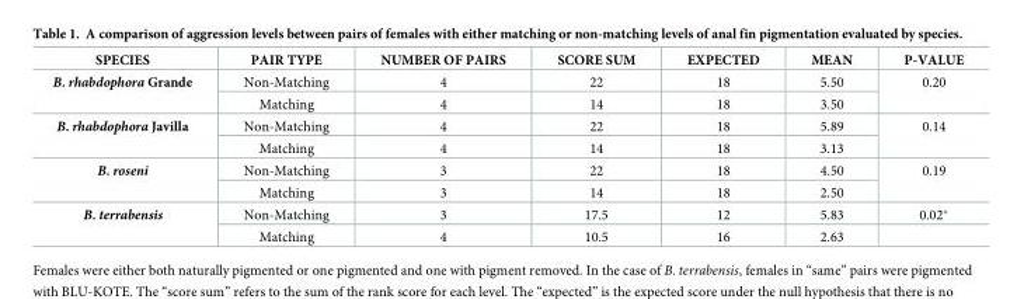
<table><thead><tr><td>SPECIES</td><td>PAIR TYPE</td><td>NUMBER OF PAIRS</td><td>SCORE SUM</td><td>EXPECTED</td><td>MEAN</td><td>P-VALUE</td></tr></thead><tbody><tr><td rowspan="2">B. rhabdophora Grande</td><td>Non-Matching</td><td>4</td><td>22</td><td>18</td><td>5.50</td><td rowspan="2">0.20</td></tr><tr><td>Matching</td><td>4</td><td>14</td><td>18</td><td>3.50</td></tr><tr><td rowspan="2">B. rhabdophora Javilla</td><td>Non-Matching</td><td>4</td><td>22</td><td>18</td><td>5.89</td><td rowspan="2">0.14</td></tr><tr><td>Matching</td><td>4</td><td>14</td><td>18</td><td>3.13</td></tr><tr><td rowspan="2">B. roseni</td><td>Non-Matching</td><td>3</td><td>22</td><td>18</td><td>4.50</td><td rowspan="2">0.19</td></tr><tr><td>Matching</td><td>3</td><td>14</td><td>18</td><td>2.50</td></tr><tr><td rowspan="2">B. terrabensis</td><td>Non-Matching</td><td>3</td><td>17.5</td><td>12</td><td>5.83</td><td>0.02*</td></tr><tr><td>Matching</td><td>4</td><td>10.5</td><td>16</td><td>2.63</td><td></td></tr></tbody></table>